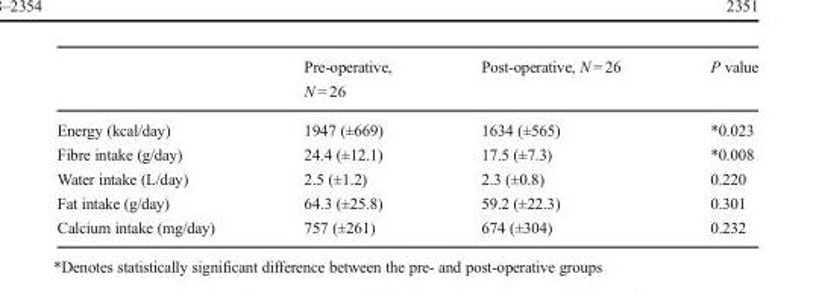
<table><thead><tr><td></td><td>Pre-operative, N = 26</td><td>Post-operative, N = 26</td><td>P value</td></tr></thead><tbody><tr><td>Energy (kcal/day)</td><td>1947 (±669)</td><td>1634 (±565)</td><td>*0.023</td></tr><tr><td>Fibre intake (g/day)</td><td>24.4 (±12.1)</td><td>17.5 (±7.3)</td><td>*0.008</td></tr><tr><td>Water intake (L/day)</td><td>2.5 (±1.2)</td><td>2.3 (±0.8)</td><td>0.220</td></tr><tr><td>Fat intake (g/day)</td><td>64.3 (±25.8)</td><td>59.2 (±22.3)</td><td>0.301</td></tr><tr><td>Calcium intake (mg/day)</td><td>757 (±261)</td><td>674 (±304)</td><td>0.232</td></tr></tbody></table>